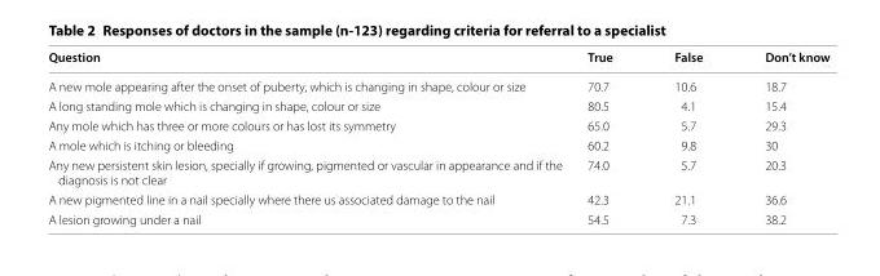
<table><thead><tr><td>Question</td><td>True</td><td>False</td><td>Don’t know</td></tr></thead><tbody><tr><td>A new mole appearing after the onset of puberty, which is changing in shape, colour or size</td><td>70.7</td><td>10.6</td><td>18.7</td></tr><tr><td>A long standing mole which is changing in shape, colour or size</td><td>80.5</td><td>4.1</td><td>15.4</td></tr><tr><td>Any mole which has three or more colours or has lost its symmetry</td><td>65.0</td><td>5.7</td><td>29.3</td></tr><tr><td>A mole which is itching or bleeding</td><td>60.2</td><td>9.8</td><td>30</td></tr><tr><td>Any new persistent skin lesion, specially if growing, pigmented or vascular in appearance and if the diagnosis is not clear</td><td>74.0</td><td>5.7</td><td>20.3</td></tr><tr><td>A new pigmented line in a nail specially where there us associated damage to the nail</td><td>42.3</td><td>21.1</td><td>36.6</td></tr><tr><td>A lesion growing under a nail</td><td>54.5</td><td>7.3</td><td>38.2</td></tr></tbody></table>